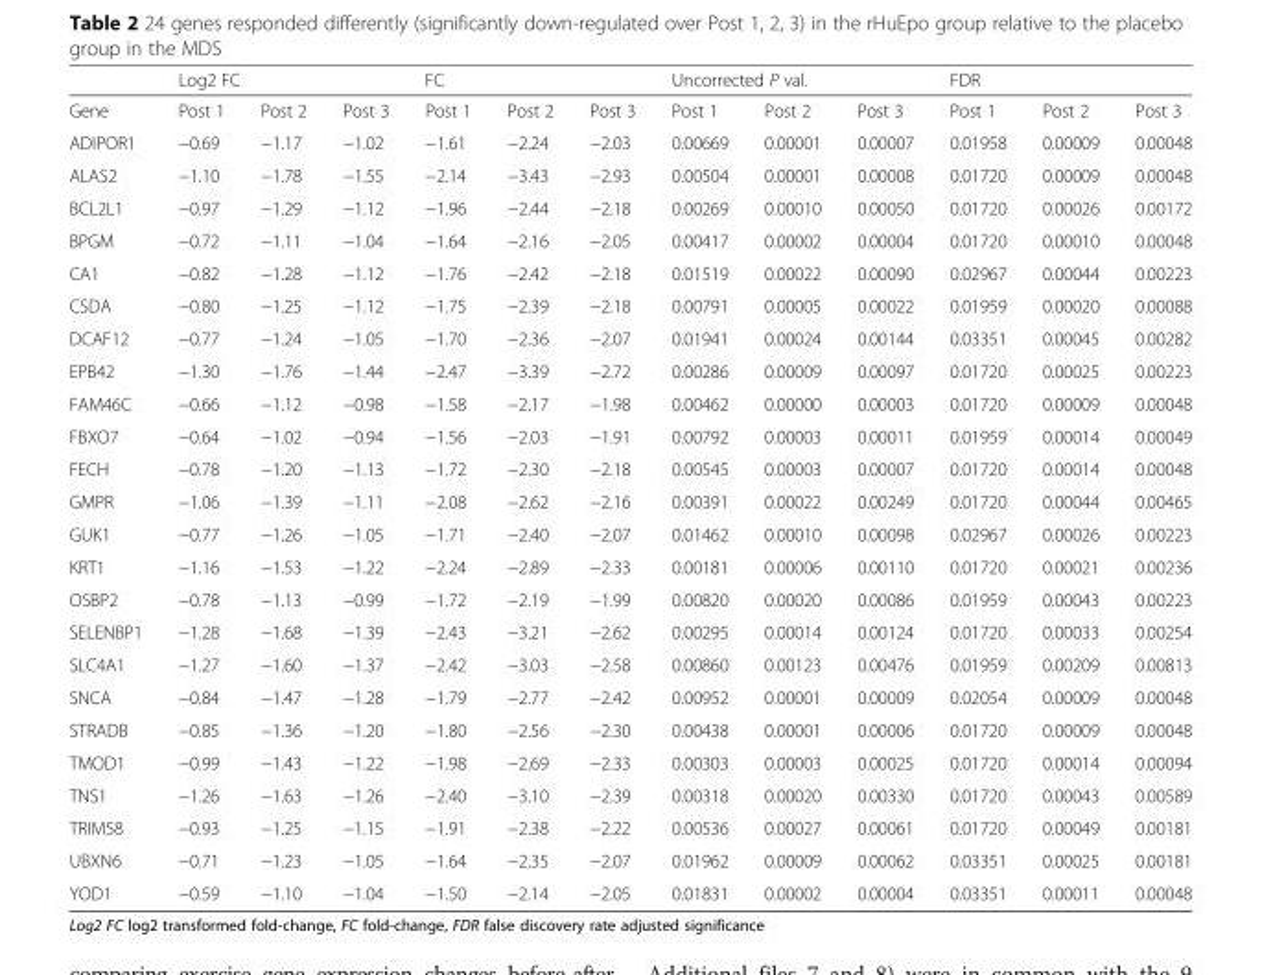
<table><thead><tr><td rowspan="2">Gene</td><td colspan="3">Log2 FC</td><td colspan="3">FC</td><td colspan="3">Uncorrected P val.</td><td colspan="3">FDR</td></tr><tr><td>Post 1</td><td>Post 2</td><td>Post 3</td><td>Post 1</td><td>Post 2</td><td>Post 3</td><td>Post 1</td><td>Post 2</td><td>Post 3</td><td>Post 1</td><td>Post 2</td><td>Post 3</td></tr></thead><tbody><tr><td>ADIPOR1</td><td>−0.69</td><td>−1.17</td><td>−1.02</td><td>−1.61</td><td>−2.24</td><td>−2.03</td><td>0.00669</td><td>0.00001</td><td>0.00007</td><td>0.01958</td><td>0.00009</td><td>0.00048</td></tr><tr><td>ALAS2</td><td>−1.10</td><td>−1.78</td><td>−1.55</td><td>−2.14</td><td>−3.43</td><td>−2.93</td><td>0.00504</td><td>0.00001</td><td>0.00008</td><td>0.01720</td><td>0.00009</td><td>0.00048</td></tr><tr><td>BCL2L1</td><td>−0.97</td><td>−1.29</td><td>−1.12</td><td>−1.96</td><td>−2.44</td><td>−2.18</td><td>0.00269</td><td>0.00010</td><td>0.00050</td><td>0.01720</td><td>0.00026</td><td>0.00172</td></tr><tr><td>BPGM</td><td>−0.72</td><td>−1.11</td><td>−1.04</td><td>−1.64</td><td>−2.16</td><td>−2.05</td><td>0.00417</td><td>0.00002</td><td>0.00004</td><td>0.01720</td><td>0.00010</td><td>0.00048</td></tr><tr><td>CA1</td><td>−0.82</td><td>−1.28</td><td>−1.12</td><td>−1.76</td><td>−2.42</td><td>−2.18</td><td>0.01519</td><td>0.00022</td><td>0.00090</td><td>0.02967</td><td>0.00044</td><td>0.00223</td></tr><tr><td>CSDA</td><td>−0.80</td><td>−1.25</td><td>−1.12</td><td>−1.75</td><td>−2.39</td><td>−2.18</td><td>0.00791</td><td>0.00005</td><td>0.00022</td><td>0.01959</td><td>0.00020</td><td>0.00088</td></tr><tr><td>DCAF12</td><td>−0.77</td><td>−1.24</td><td>−1.05</td><td>−1.70</td><td>−2.36</td><td>−2.07</td><td>0.01941</td><td>0.00024</td><td>0.00144</td><td>0.03351</td><td>0.00045</td><td>0.00282</td></tr><tr><td>EPB42</td><td>−1.30</td><td>−1.76</td><td>−1.44</td><td>−2.47</td><td>−3.39</td><td>−2.72</td><td>0.00286</td><td>0.00009</td><td>0.00097</td><td>0.01720</td><td>0.00025</td><td>0.00223</td></tr><tr><td>FAM46C</td><td>−0.66</td><td>−1.12</td><td>−0.98</td><td>−1.58</td><td>−2.17</td><td>−1.98</td><td>0.00462</td><td>0.00000</td><td>0.00003</td><td>0.01720</td><td>0.00009</td><td>0.00048</td></tr><tr><td>FBXO7</td><td>−0.64</td><td>−1.02</td><td>−0.94</td><td>−1.56</td><td>−2.03</td><td>−1.91</td><td>0.00792</td><td>0.00003</td><td>0.00011</td><td>0.01959</td><td>0.00014</td><td>0.00049</td></tr><tr><td>FECH</td><td>−0.78</td><td>−1.20</td><td>−1.13</td><td>−1.72</td><td>−2.30</td><td>−2.18</td><td>0.00545</td><td>0.00003</td><td>0.00007</td><td>0.01720</td><td>0.00014</td><td>0.00048</td></tr><tr><td>GMPR</td><td>−1.06</td><td>−1.39</td><td>−1.11</td><td>−2.08</td><td>−2.62</td><td>−2.16</td><td>0.00391</td><td>0.00022</td><td>0.00249</td><td>0.01720</td><td>0.00044</td><td>0.00465</td></tr><tr><td>GUK1</td><td>−0.77</td><td>−1.26</td><td>−1.05</td><td>−1.71</td><td>−2.40</td><td>−2.07</td><td>0.01462</td><td>0.00010</td><td>0.00098</td><td>0.02967</td><td>0.00026</td><td>0.00223</td></tr><tr><td>KRT1</td><td>−1.16</td><td>−1.53</td><td>−1.22</td><td>−2.24</td><td>−2.89</td><td>−2.33</td><td>0.00181</td><td>0.00006</td><td>0.00110</td><td>0.01720</td><td>0.00021</td><td>0.00236</td></tr><tr><td>OSBP2</td><td>−0.78</td><td>−1.13</td><td>−0.99</td><td>−1.72</td><td>−2.19</td><td>−1.99</td><td>0.00820</td><td>0.00020</td><td>0.00086</td><td>0.01959</td><td>0.00043</td><td>0.00223</td></tr><tr><td>SELENBP1</td><td>−1.28</td><td>−1.68</td><td>−1.39</td><td>−2.43</td><td>−3.21</td><td>−2.62</td><td>0.00295</td><td>0.00014</td><td>0.00124</td><td>0.01720</td><td>0.00033</td><td>0.00254</td></tr><tr><td>SLC4A1</td><td>−1.27</td><td>−1.60</td><td>−1.37</td><td>−2.42</td><td>−3.03</td><td>−2.58</td><td>0.00860</td><td>0.00123</td><td>0.00476</td><td>0.01959</td><td>0.00209</td><td>0.00813</td></tr><tr><td>SNCA</td><td>−0.84</td><td>−1.47</td><td>−1.28</td><td>−1.79</td><td>−2.77</td><td>−2.42</td><td>0.00952</td><td>0.00001</td><td>0.00009</td><td>0.02054</td><td>0.00009</td><td>0.00048</td></tr><tr><td>STRADB</td><td>−0.85</td><td>−1.36</td><td>−1.20</td><td>−1.80</td><td>−2.56</td><td>−2.30</td><td>0.00438</td><td>0.00001</td><td>0.00006</td><td>0.01720</td><td>0.00009</td><td>0.00048</td></tr><tr><td>TMOD1</td><td>−0.99</td><td>−1.43</td><td>−1.22</td><td>−1.98</td><td>−2.69</td><td>−2.33</td><td>0.00303</td><td>0.00003</td><td>0.00025</td><td>0.01720</td><td>0.00014</td><td>0.00094</td></tr><tr><td>TNS1</td><td>−1.26</td><td>−1.63</td><td>−1.26</td><td>−2.40</td><td>−3.10</td><td>−2.39</td><td>0.00318</td><td>0.00020</td><td>0.00330</td><td>0.01720</td><td>0.00043</td><td>0.00589</td></tr><tr><td>TRIM58</td><td>−0.93</td><td>−1.25</td><td>−1.15</td><td>−1.91</td><td>−2.38</td><td>−2.22</td><td>0.00536</td><td>0.00027</td><td>0.00061</td><td>0.01720</td><td>0.00049</td><td>0.00181</td></tr><tr><td>UBXN6</td><td>−0.71</td><td>−1.23</td><td>−1.05</td><td>−1.64</td><td>−2.35</td><td>−2.07</td><td>0.01962</td><td>0.00009</td><td>0.00062</td><td>0.03351</td><td>0.00025</td><td>0.00181</td></tr><tr><td>YOD1</td><td>−0.59</td><td>−1.10</td><td>−1.04</td><td>−1.50</td><td>−2.14</td><td>−2.05</td><td>0.01831</td><td>0.00002</td><td>0.00004</td><td>0.03351</td><td>0.00011</td><td>0.00048</td></tr></tbody></table>